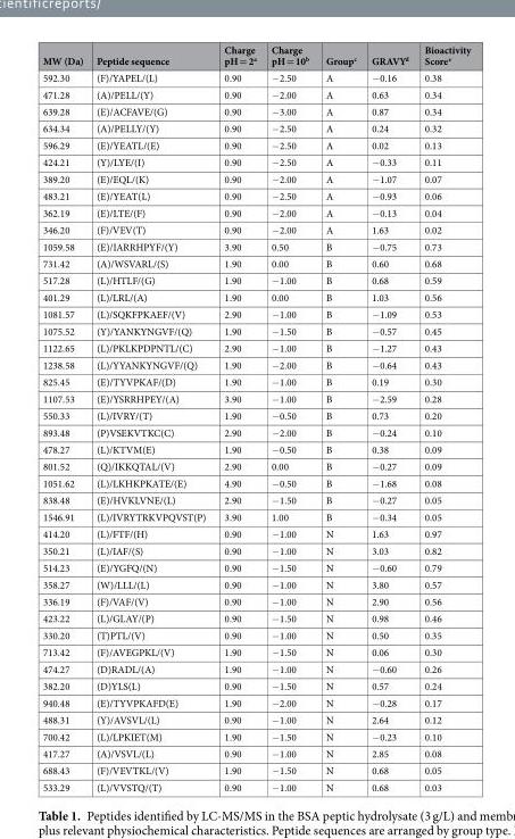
<table><thead><tr><td>MW (Da)</td><td>Peptide sequence</td><td>Charge pH = 2<sup>a</sup></td><td>Charge pH = 10<sup>b</sup></td><td>Group<sup>c</sup></td><td>GRAVY<sup>d</sup></td><td>Bioactivity Score<sup>e</sup></td></tr></thead><tbody><tr><td>592.30</td><td>(F)/YAPEL/(L)</td><td>0.90</td><td>−2.50</td><td>A</td><td>−0.16</td><td>0.38</td></tr><tr><td>471.28</td><td>(A)/PELL/(Y)</td><td>0.90</td><td>−2.00</td><td>A</td><td>0.63</td><td>0.34</td></tr><tr><td>639.28</td><td>(E)/ACFAVE/(G)</td><td>0.90</td><td>−3.00</td><td>A</td><td>0.87</td><td>0.34</td></tr><tr><td>634.34</td><td>(A)/PELLY/(Y)</td><td>0.90</td><td>−2.50</td><td>A</td><td>0.24</td><td>0.32</td></tr><tr><td>596.29</td><td>(E)/YEATL/(E)</td><td>0.90</td><td>−2.50</td><td>A</td><td>0.02</td><td>0.13</td></tr><tr><td>424.21</td><td>(Y)/LYE/(I)</td><td>0.90</td><td>−2.50</td><td>A</td><td>−0.33</td><td>0.11</td></tr><tr><td>389.20</td><td>(E)/EQL/(K)</td><td>0.90</td><td>−2.00</td><td>A</td><td>−1.07</td><td>0.07</td></tr><tr><td>483.21</td><td>(E)/YEAT(L)</td><td>0.90</td><td>−2.50</td><td>A</td><td>−0.93</td><td>0.06</td></tr><tr><td>362.19</td><td>(E)/LTE/(F)</td><td>0.90</td><td>−2.00</td><td>A</td><td>−0.13</td><td>0.04</td></tr><tr><td>346.20</td><td>(F)/VEV(T)</td><td>0.90</td><td>−2.00</td><td>A</td><td>1.63</td><td>0.02</td></tr><tr><td>1059.58</td><td>(E)/IARRHPYF/(Y)</td><td>3.90</td><td>0.50</td><td>B</td><td>−0.75</td><td>0.73</td></tr><tr><td>731.42</td><td>(A)/WSVARL/(S)</td><td>1.90</td><td>0.00</td><td>B</td><td>0.60</td><td>0.68</td></tr><tr><td>517.28</td><td>(L)/HTLF/(G)</td><td>1.90</td><td>−1.00</td><td>B</td><td>0.68</td><td>0.59</td></tr><tr><td>401.29</td><td>(L)/LRL/(A)</td><td>1.90</td><td>0.00</td><td>B</td><td>1.03</td><td>0.56</td></tr><tr><td>1081.57</td><td>(L)/SQKFPKAEF/(V)</td><td>2.90</td><td>−1.00</td><td>B</td><td>−1.09</td><td>0.53</td></tr><tr><td>1075.52</td><td>(Y)/YANKYNGVF/(Q)</td><td>1.90</td><td>−1.50</td><td>B</td><td>−0.57</td><td>0.45</td></tr><tr><td>1122.65</td><td>(L)/PKLKPDPNTL/(C)</td><td>2.90</td><td>−1.00</td><td>B</td><td>−1.27</td><td>0.43</td></tr><tr><td>1238.58</td><td>(L)/YYANKYNGVF/(Q)</td><td>1.90</td><td>−2.00</td><td>B</td><td>−0.64</td><td>0.43</td></tr><tr><td>825.45</td><td>(E)/TYVPKAF/(D)</td><td>1.90</td><td>−1.00</td><td>B</td><td>0.19</td><td>0.30</td></tr><tr><td>1107.53</td><td>(E)/YSRRHPEY/(A)</td><td>3.90</td><td>−1.00</td><td>B</td><td>−2.59</td><td>0.28</td></tr><tr><td>550.33</td><td>(L)/IVRY/(T)</td><td>1.90</td><td>−0.50</td><td>B</td><td>0.73</td><td>0.20</td></tr><tr><td>893.48</td><td>(P)VSEKVTKC(C)</td><td>2.90</td><td>−2.00</td><td>B</td><td>−0.24</td><td>0.10</td></tr><tr><td>478.27</td><td>(L)/KTVM(E)</td><td>1.90</td><td>−0.50</td><td>B</td><td>0.38</td><td>0.09</td></tr><tr><td>801.52</td><td>(Q)/IKKQTAL/(V)</td><td>2.90</td><td>0.00</td><td>B</td><td>−0.27</td><td>0.09</td></tr><tr><td>1051.62</td><td>(L)/LKHKPKATE/(E)</td><td>4.90</td><td>−0.50</td><td>B</td><td>−1.68</td><td>0.08</td></tr><tr><td>838.48</td><td>(E)/HVKLVNE/(L)</td><td>2.90</td><td>−1.50</td><td>B</td><td>−0.27</td><td>0.05</td></tr><tr><td>1546.91</td><td>(L)/IVRYTRKVPQVST(P)</td><td>3.90</td><td>1.00</td><td>B</td><td>−0.34</td><td>0.05</td></tr><tr><td>414.20</td><td>(L)/FTF/(H)</td><td>0.90</td><td>−1.00</td><td>N</td><td>1.63</td><td>0.97</td></tr><tr><td>350.21</td><td>(L)/IAF/(S)</td><td>0.90</td><td>−1.00</td><td>N</td><td>3.03</td><td>0.82</td></tr><tr><td>514.23</td><td>(E)/YGFQ/(N)</td><td>0.90</td><td>−1.50</td><td>N</td><td>−0.60</td><td>0.79</td></tr><tr><td>358.27</td><td>(W)/LLL/(L)</td><td>0.90</td><td>−1.00</td><td>N</td><td>3.80</td><td>0.57</td></tr><tr><td>336.19</td><td>(F)/VAF/(V)</td><td>0.90</td><td>−1.00</td><td>N</td><td>2.90</td><td>0.56</td></tr><tr><td>423.22</td><td>(L)/GLAY/(P)</td><td>0.90</td><td>−1.50</td><td>N</td><td>0.98</td><td>0.46</td></tr><tr><td>330.20</td><td>(T)PTL/(V)</td><td>0.90</td><td>−1.00</td><td>N</td><td>0.50</td><td>0.35</td></tr><tr><td>713.42</td><td>(F)/AVEGPKL/(V)</td><td>1.90</td><td>−1.50</td><td>N</td><td>0.06</td><td>0.30</td></tr><tr><td>474.27</td><td>(D)RADL/(A)</td><td>1.90</td><td>−1.00</td><td>N</td><td>−0.60</td><td>0.26</td></tr><tr><td>382.20</td><td>(D)YLS(L)</td><td>0.90</td><td>−1.50</td><td>N</td><td>0.57</td><td>0.24</td></tr><tr><td>940.48</td><td>(E)/TYVPKAFD(E)</td><td>1.90</td><td>−2.00</td><td>N</td><td>−0.28</td><td>0.17</td></tr><tr><td>488.31</td><td>(Y)/AVSVL/(L)</td><td>0.90</td><td>−1.00</td><td>N</td><td>2.64</td><td>0.12</td></tr><tr><td>700.42</td><td>(L)/LPKIET(M)</td><td>1.90</td><td>−1.50</td><td>N</td><td>−0.23</td><td>0.10</td></tr><tr><td>417.27</td><td>(A)/VSVL/(L)</td><td>0.90</td><td>−1.00</td><td>N</td><td>2.85</td><td>0.08</td></tr><tr><td>688.43</td><td>(F)/VEVTKL/(V)</td><td>1.90</td><td>−1.50</td><td>N</td><td>0.68</td><td>0.05</td></tr><tr><td>533.29</td><td>(L)/VVSTQ/(T)</td><td>0.90</td><td>−1.00</td><td>N</td><td>0.68</td><td>0.03</td></tr></tbody></table>